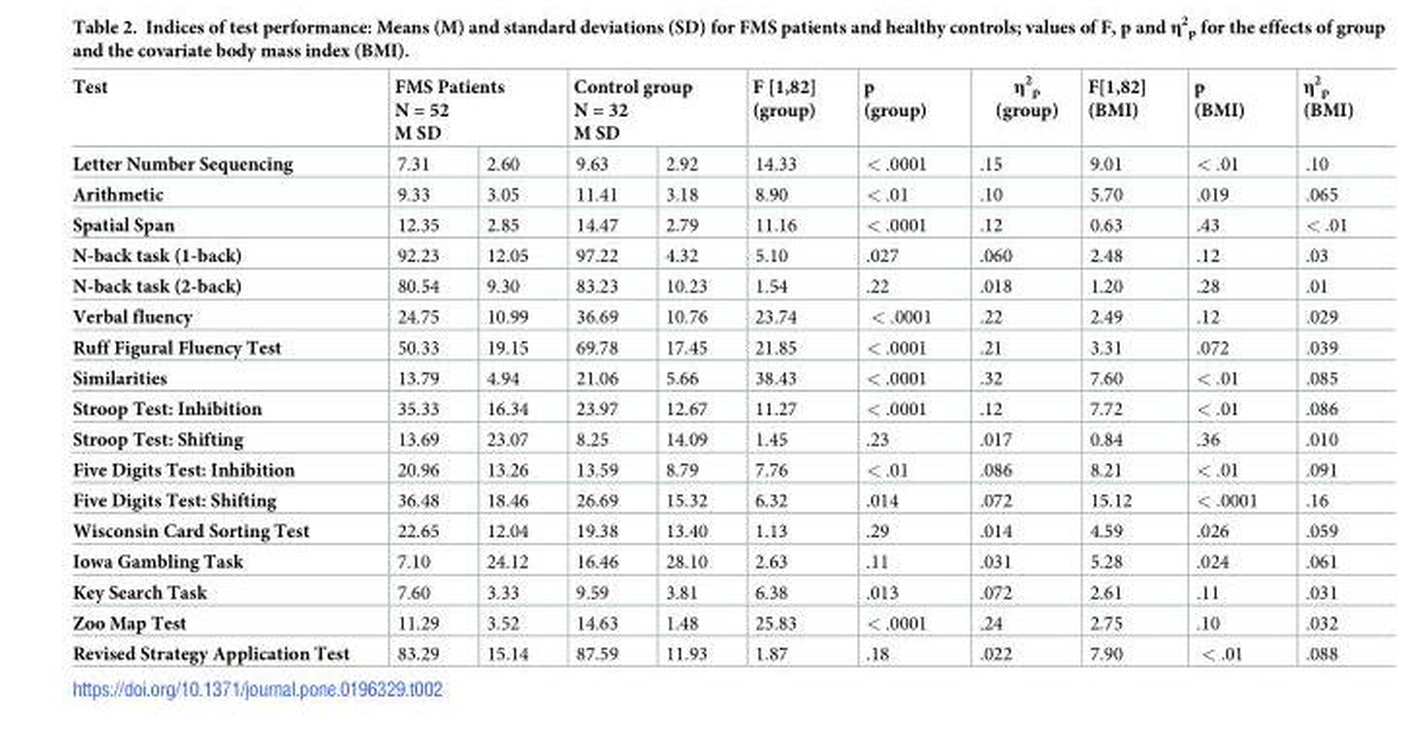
<table><thead><tr><td rowspan="2">Test Letter Number Sequencing</td><td colspan="2">FMS Patients N = 52 M SD</td><td colspan="2">Control group N = 32 M SD</td><td rowspan="2">F [1,82] (group) 14.33</td><td rowspan="2">p (group) &lt; .0001</td><td rowspan="2">η<sup>2</sup> <sub>p</sub> (group) .15</td><td rowspan="2">F[1,82] (BMI) 9.01</td><td rowspan="2">p (BMI) &lt; .01</td><td rowspan="2">η<sup>2</sup> <sub>p</sub> (BMI) .10</td></tr><tr><td>7.31</td><td>2.60</td><td>9.63</td><td>2.92</td></tr></thead><tbody><tr><td>Arithmetic</td><td>9.33</td><td>3.05</td><td>11.41</td><td>3.18</td><td>8.90</td><td>&lt; .01</td><td>.10</td><td>5.70</td><td>.019</td><td>.065</td></tr><tr><td>Spatial Span</td><td>12.35</td><td>2.85</td><td>14.47</td><td>2.79</td><td>11.16</td><td>&lt; .0001</td><td>.12</td><td>0.63</td><td>.43</td><td>&lt; .01</td></tr><tr><td>N-back task (1-back)</td><td>92.23</td><td>12.05</td><td>97.22</td><td>4.32</td><td>5.10</td><td>.027</td><td>.060</td><td>2.48</td><td>.12</td><td>.03</td></tr><tr><td>N-back task (2-back)</td><td>80.54</td><td>9.30</td><td>83.23</td><td>10.23</td><td>1.54</td><td>.22</td><td>.018</td><td>1.20</td><td>.28</td><td>.01</td></tr><tr><td>Verbal fluency</td><td>24.75</td><td>10.99</td><td>36.69</td><td>10.76</td><td>23.74</td><td>&lt; .0001</td><td>.22</td><td>2.49</td><td>.12</td><td>.029</td></tr><tr><td>Ruff Figural Fluency Test</td><td>50.33</td><td>19.15</td><td>69.78</td><td>17.45</td><td>21.85</td><td>&lt; .0001</td><td>.21</td><td>3.31</td><td>.072</td><td>.039</td></tr><tr><td>Similarities</td><td>13.79</td><td>4.94</td><td>21.06</td><td>5.66</td><td>38.43</td><td>&lt; .0001</td><td>.32</td><td>7.60</td><td>&lt; .01</td><td>.085</td></tr><tr><td>Stroop Test: Inhibition</td><td>35.33</td><td>16.34</td><td>23.97</td><td>12.67</td><td>11.27</td><td>&lt; .0001</td><td>.12</td><td>7.72</td><td>&lt; .01</td><td>.086</td></tr><tr><td>Stroop Test: Shifting</td><td>13.69</td><td>23.07</td><td>8.25</td><td>14.09</td><td>1.45</td><td>.23</td><td>.017</td><td>0.84</td><td>.36</td><td>.010</td></tr><tr><td>Five Digits Test: Inhibition</td><td>20.96</td><td>13.26</td><td>13.59</td><td>8.79</td><td>7.76</td><td>&lt; .01</td><td>.086</td><td>8.21</td><td>&lt; .01</td><td>.091</td></tr><tr><td>Five Digits Test: Shifting</td><td>36.48</td><td>18.46</td><td>26.69</td><td>15.32</td><td>6.32</td><td>.014</td><td>.072</td><td>15.12</td><td>&lt; .0001</td><td>.16</td></tr><tr><td>Wisconsin Card Sorting Test</td><td>22.65</td><td>12.04</td><td>19.38</td><td>13.40</td><td>1.13</td><td>.29</td><td>.014</td><td>4.59</td><td>.026</td><td>.059</td></tr><tr><td>Iowa Gambling Task</td><td>7.10</td><td>24.12</td><td>16.46</td><td>28.10</td><td>2.63</td><td>.11</td><td>.031</td><td>5.28</td><td>.024</td><td>.061</td></tr><tr><td>Key Search Task</td><td>7.60</td><td>3.33</td><td>9.59</td><td>3.81</td><td>6.38</td><td>.013</td><td>.072</td><td>2.61</td><td>.11</td><td>.031</td></tr><tr><td>Zoo Map Test</td><td>11.29</td><td>3.52</td><td>14.63</td><td>1.48</td><td>25.83</td><td>&lt; .0001</td><td>.24</td><td>2.75</td><td>.10</td><td>.032</td></tr><tr><td>Revised Strategy Application Test</td><td>83.29</td><td>15.14</td><td>87.59</td><td>11.93</td><td>1.87</td><td>.18</td><td>.022</td><td>7.90</td><td>&lt; .01</td><td>.088</td></tr></tbody></table>